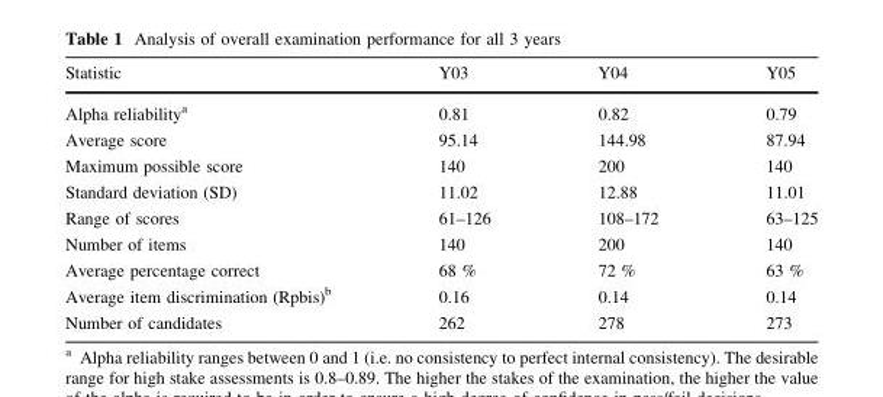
<table><thead><tr><td>Statistic</td><td>Y03</td><td>Y04</td><td>Y05</td></tr></thead><tbody><tr><td>Alpha reliability<sup>a</sup></td><td>0.81</td><td>0.82</td><td>0.79</td></tr><tr><td>Average score</td><td>95.14</td><td>144.98</td><td>87.94</td></tr><tr><td>Maximum possible score</td><td>140</td><td>200</td><td>140</td></tr><tr><td>Standard deviation (SD)</td><td>11.02</td><td>12.88</td><td>11.01</td></tr><tr><td>Range of scores</td><td>61–126</td><td>108–172</td><td>63–125</td></tr><tr><td>Number of items</td><td>140</td><td>200</td><td>140</td></tr><tr><td>Average percentage correct</td><td>68 %</td><td>72 %</td><td>63 %</td></tr><tr><td>Average item discrimination (Rpbis)<sup>b</sup></td><td>0.16</td><td>0.14</td><td>0.14</td></tr><tr><td>Number of candidates</td><td>262</td><td>278</td><td>273</td></tr></tbody></table>